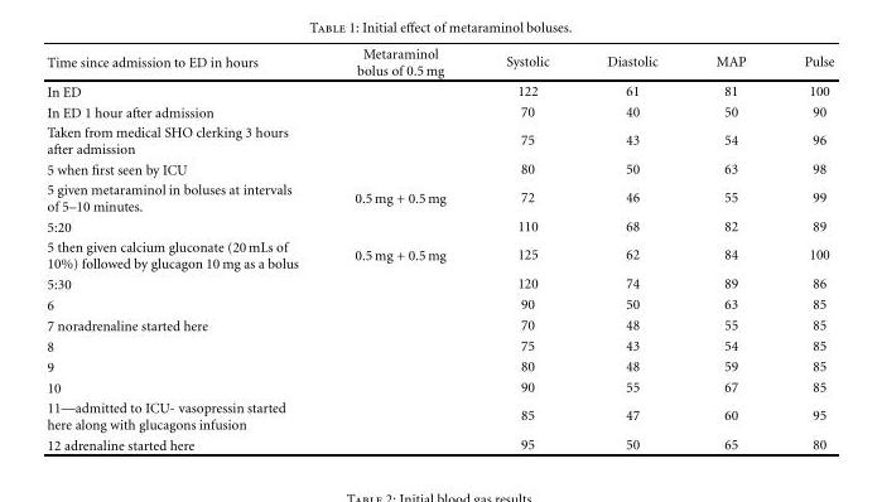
<table><thead><tr><td>Time since admission to ED in hours</td><td>Metaraminol bolus of 0.5 mg</td><td>Systolic</td><td>Diastolic</td><td>MAP</td><td>Pulse</td></tr></thead><tbody><tr><td>In ED</td><td></td><td>122</td><td>61</td><td>81</td><td>100</td></tr><tr><td>In ED 1 hour after admission</td><td></td><td>70</td><td>40</td><td>50</td><td>90</td></tr><tr><td>Taken from medical SHO clerking 3 hours after admission</td><td></td><td>75</td><td>43</td><td>54</td><td>96</td></tr><tr><td>5 when first seen by ICU</td><td></td><td>80</td><td>50</td><td>63</td><td>98</td></tr><tr><td>5 given metaraminol in boluses at intervals of 5–10 minutes.</td><td>0.5 mg + 0.5 mg</td><td>72</td><td>46</td><td>55</td><td>99</td></tr><tr><td>5:20</td><td></td><td>110</td><td>68</td><td>82</td><td>89</td></tr><tr><td>5 then given calcium gluconate (20 mLs of 10%) followed by glucagon 10 mg as a bolus</td><td>0.5 mg + 0.5 mg</td><td>125</td><td>62</td><td>84</td><td>100</td></tr><tr><td>5:30</td><td></td><td>120</td><td>74</td><td>89</td><td>86</td></tr><tr><td>6</td><td></td><td>90</td><td>50</td><td>63</td><td>85</td></tr><tr><td>7 noradrenaline started here</td><td></td><td>70</td><td>48</td><td>55</td><td>85</td></tr><tr><td>8</td><td></td><td>75</td><td>43</td><td>54</td><td>85</td></tr><tr><td>9</td><td></td><td>80</td><td>48</td><td>59</td><td>85</td></tr><tr><td>10</td><td></td><td>90</td><td>55</td><td>67</td><td>85</td></tr><tr><td>11—admitted to ICU- vasopressin started here along with glucagons infusion</td><td></td><td>85</td><td>47</td><td>60</td><td>95</td></tr><tr><td>12 adrenaline started here</td><td></td><td>95</td><td>50</td><td>65</td><td>80</td></tr></tbody></table>